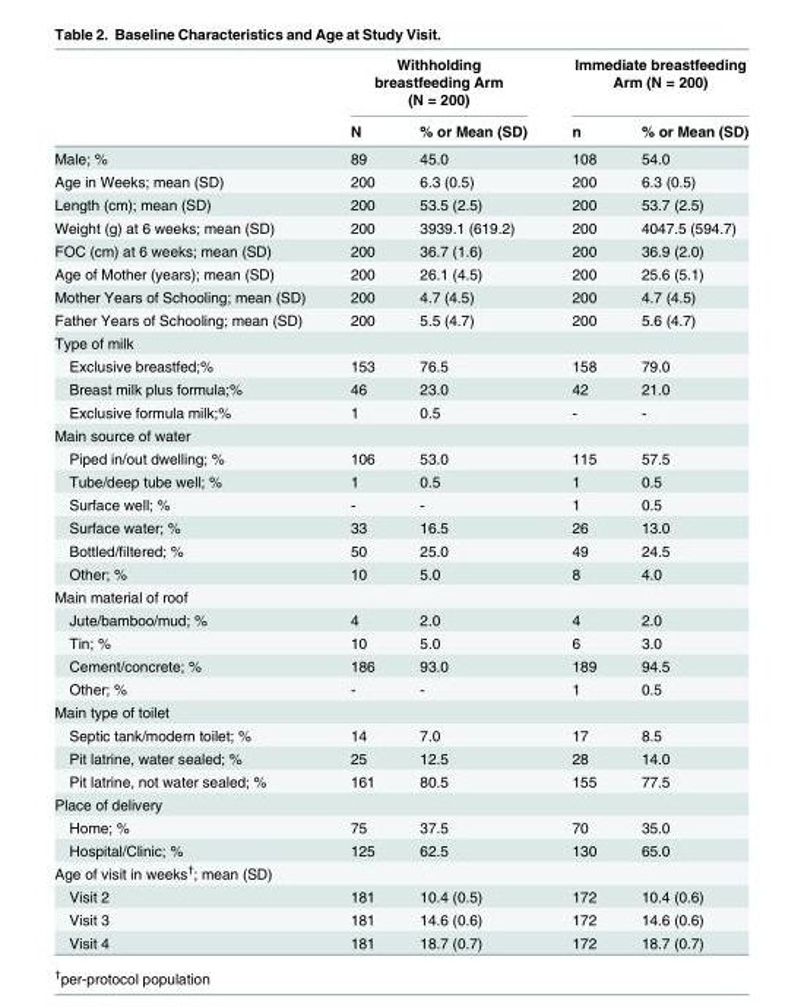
<table><thead><tr><td rowspan="2"></td><td colspan="2">Withholding breastfeeding Arm (N = 200)</td><td colspan="2">Immediate breastfeeding Arm (N = 200)</td></tr><tr><td>N</td><td>% or Mean (SD)</td><td>n</td><td>% or Mean (SD)</td></tr></thead><tbody><tr><td>Male; %</td><td>89</td><td>45.0</td><td>108</td><td>54.0</td></tr><tr><td>Age in Weeks; mean (SD)</td><td>200</td><td>6.3 (0.5)</td><td>200</td><td>6.3 (0.5)</td></tr><tr><td>Length (cm); mean (SD)</td><td>200</td><td>53.5 (2.5)</td><td>200</td><td>53.7 (2.5)</td></tr><tr><td>Weight (g) at 6 weeks; mean (SD)</td><td>200</td><td>3939.1 (619.2)</td><td>200</td><td>4047.5 (594.7)</td></tr><tr><td>FOC (cm) at 6 weeks; mean (SD)</td><td>200</td><td>36.7 (1.6)</td><td>200</td><td>36.9 (2.0)</td></tr><tr><td>Age of Mother (years); mean (SD)</td><td>200</td><td>26.1 (4.5)</td><td>200</td><td>25.6 (5.1)</td></tr><tr><td>Mother Years of Schooling; mean (SD)</td><td>200</td><td>4.7 (4.5)</td><td>200</td><td>4.7 (4.5)</td></tr><tr><td>Father Years of Schooling; mean (SD)</td><td>200</td><td>5.5 (4.7)</td><td>200</td><td>5.6 (4.7)</td></tr><tr><td colspan="5">Type of milk</td></tr><tr><td>Exclusive breastfed;%</td><td>153</td><td>76.5</td><td>158</td><td>79.0</td></tr><tr><td>Breast milk plus formula;%</td><td>46</td><td>23.0</td><td>42</td><td>21.0</td></tr><tr><td>Exclusive formula milk;%</td><td>1</td><td>0.5</td><td>-</td><td>-</td></tr><tr><td colspan="5">Main source of water</td></tr><tr><td>Piped in/out dwelling; %</td><td>106</td><td>53.0</td><td>115</td><td>57.5</td></tr><tr><td>Tube/deep tube well; %</td><td>1</td><td>0.5</td><td>1</td><td>0.5</td></tr><tr><td>Surface well; %</td><td>-</td><td>-</td><td>1</td><td>0.5</td></tr><tr><td>Surface water; %</td><td>33</td><td>16.5</td><td>26</td><td>13.0</td></tr><tr><td>Bottled/filtered; %</td><td>50</td><td>25.0</td><td>49</td><td>24.5</td></tr><tr><td>Other; %</td><td>10</td><td>5.0</td><td>8</td><td>4.0</td></tr><tr><td colspan="5">Main material of roof</td></tr><tr><td>Jute/bamboo/mud; %</td><td>4</td><td>2.0</td><td>4</td><td>2.0</td></tr><tr><td>Tin; %</td><td>10</td><td>5.0</td><td>6</td><td>3.0</td></tr><tr><td>Cement/concrete; %</td><td>186</td><td>93.0</td><td>189</td><td>94.5</td></tr><tr><td>Other; %</td><td>-</td><td>-</td><td>1</td><td>0.5</td></tr><tr><td colspan="5">Main type of toilet</td></tr><tr><td>Septic tank/modern toilet; %</td><td>14</td><td>7.0</td><td>17</td><td>8.5</td></tr><tr><td>Pit latrine, water sealed; %</td><td>25</td><td>12.5</td><td>28</td><td>14.0</td></tr><tr><td>Pit latrine, not water sealed; %</td><td>161</td><td>80.5</td><td>155</td><td>77.5</td></tr><tr><td colspan="5">Place of delivery</td></tr><tr><td>Home; %</td><td>75</td><td>37.5</td><td>70</td><td>35.0</td></tr><tr><td>Hospital/Clinic; %</td><td>125</td><td>62.5</td><td>130</td><td>65.0</td></tr><tr><td colspan="5">Age of visit in weeks<sup>†</sup>; mean (SD)</td></tr><tr><td>Visit 2</td><td>181</td><td>10.4 (0.5)</td><td>172</td><td>10.4 (0.6)</td></tr><tr><td>Visit 3</td><td>181</td><td>14.6 (0.6)</td><td>172</td><td>14.6 (0.6)</td></tr><tr><td>Visit 4</td><td>181</td><td>18.7 (0.7)</td><td>172</td><td>18.7 (0.7)</td></tr></tbody></table>